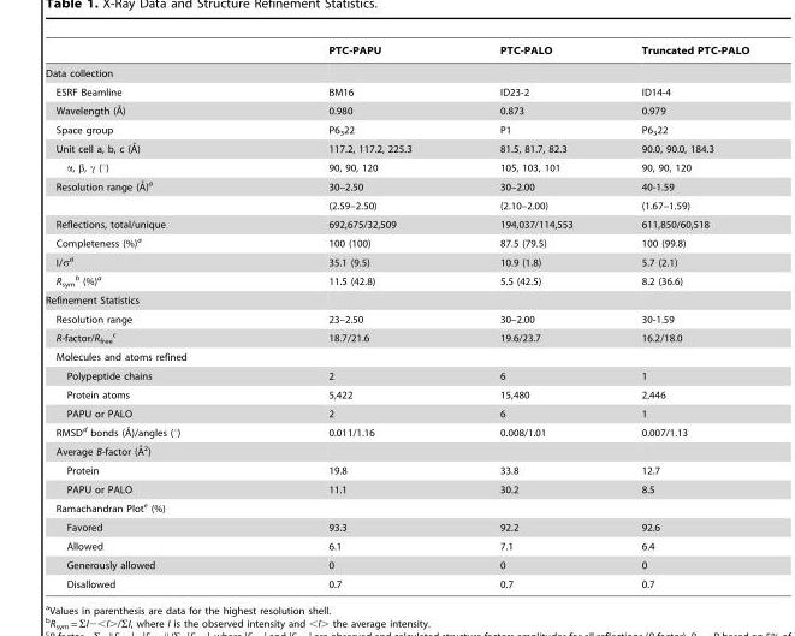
<table><thead><tr><td></td><td>PTC-PAPU</td><td>PTC-PALO</td><td>Truncated PTC-PALO</td></tr></thead><tbody><tr><td colspan="4">Data collection</td></tr><tr><td>ESRF Beamline</td><td>BM16</td><td>ID23-2</td><td>ID14-4</td></tr><tr><td>Wavelength (A˚)</td><td>0.980</td><td>0.873</td><td>0.979</td></tr><tr><td>Space group</td><td>P6<sub>3</sub>22</td><td>P1</td><td>P6<sub>3</sub>22</td></tr><tr><td>Unit cell a, b, c (A˚)</td><td>117.2, 117.2, 225.3</td><td>81.5, 81.7, 82.3</td><td>90.0, 90.0, 184.3</td></tr><tr><td>α, β, γ (°)</td><td>90, 90, 120</td><td>105, 103, 101</td><td>90, 90, 120</td></tr><tr><td rowspan="2">Resolution range (A˚)a</td><td>30–2.50</td><td>30–2.00</td><td>40-1.59</td></tr><tr><td>(2.59–2.50)</td><td>(2.10–2.00)</td><td>(1.67–1.59)</td></tr><tr><td>Reflections, total/unique</td><td>692,675/32,509</td><td>194,037/114,553</td><td>611,850/60,518</td></tr><tr><td>Completeness (%)<sup>a</sup></td><td>100 (100)</td><td>87.5 (79.5)</td><td>100 (99.8)</td></tr><tr><td>I/σ<sup>a</sup></td><td>35.1 (9.5)</td><td>10.9 (1.8)</td><td>5.7 (2.1)</td></tr><tr><td>R<sub>sym</sub> b (%)<sup>a</sup></td><td>11.5 (42.8)</td><td>5.5 (42.5)</td><td>8.2 (36.6)</td></tr><tr><td colspan="4">Refinement Statistics</td></tr><tr><td>Resolution range</td><td>23–2.50</td><td>30–2.00</td><td>30-1.59</td></tr><tr><td>R-factor/R<sub>free</sub> c</td><td>18.7/21.6</td><td>19.6/23.7</td><td>16.2/18.0</td></tr><tr><td colspan="4">Molecules and atoms refined</td></tr><tr><td>Polypeptide chains</td><td>2</td><td>6</td><td>1</td></tr><tr><td>Protein atoms</td><td>5,422</td><td>15,480</td><td>2,446</td></tr><tr><td>PAPU or PALO</td><td>2</td><td>6</td><td>1</td></tr><tr><td>RMSDd bonds (A˚)/angles (u)</td><td>0.011/1.16</td><td>0.008/1.01</td><td>0.007/1.13</td></tr><tr><td colspan="4">Average B-factor (A˚ 2)</td></tr><tr><td>Protein</td><td>19.8</td><td>33.8</td><td>12.7</td></tr><tr><td>PAPU or PALO</td><td>11.1</td><td>30.2</td><td>8.5</td></tr><tr><td colspan="4">Ramachandran Plot<sup>e</sup> (%)</td></tr><tr><td>Favored</td><td>93.3</td><td>92.2</td><td>92.6</td></tr><tr><td>Allowed</td><td>6.1</td><td>7.1</td><td>6.4</td></tr><tr><td>Generously allowed</td><td>0</td><td>0</td><td>0</td></tr><tr><td>Disallowed</td><td>0.7</td><td>0.7</td><td>0.7</td></tr></tbody></table>